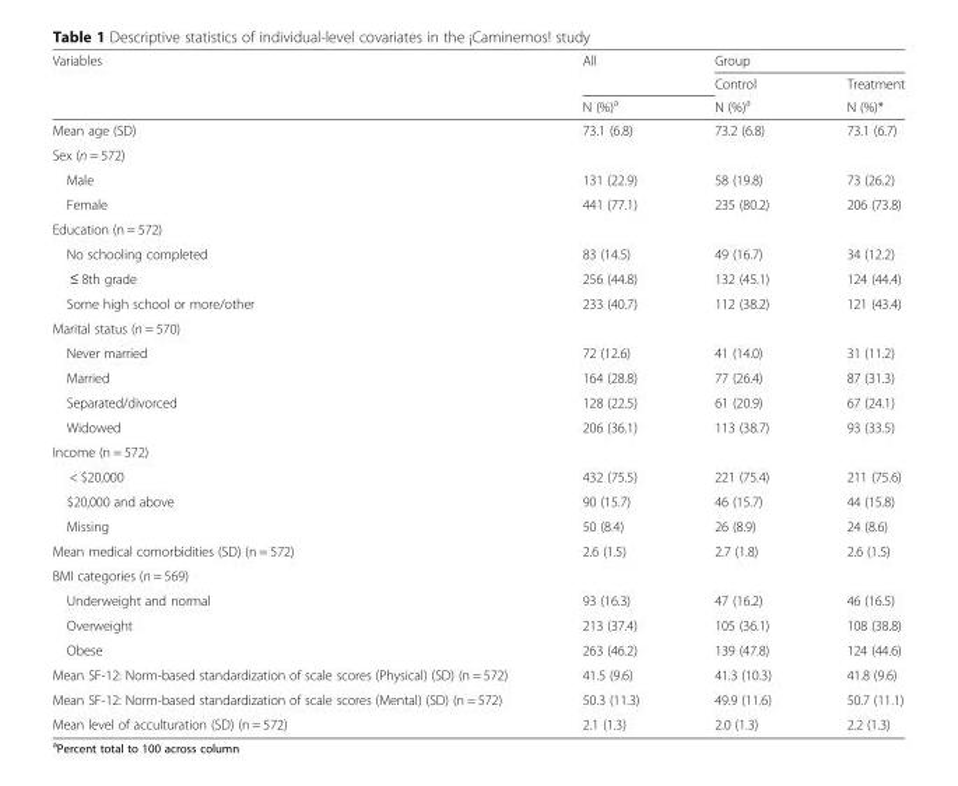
<table><thead><tr><td rowspan="3">Variables</td><td rowspan="3">All N (%)<sup>a</sup></td><td colspan="2">Group</td></tr><tr><td rowspan="2">Control N (%)<sup>a</sup></td><td rowspan="2">Treatment N (%)*</td></tr><tr></tr></thead><tbody><tr><td>Mean age (SD)</td><td>73.1 (6.8)</td><td>73.2 (6.8)</td><td>73.1 (6.7)</td></tr><tr><td colspan="4">Sex (n = 572)</td></tr><tr><td>Male</td><td>131 (22.9)</td><td>58 (19.8)</td><td>73 (26.2)</td></tr><tr><td>Female</td><td>441 (77.1)</td><td>235 (80.2)</td><td>206 (73.8)</td></tr><tr><td colspan="4">Education (n = 572)</td></tr><tr><td>No schooling completed</td><td>83 (14.5)</td><td>49 (16.7)</td><td>34 (12.2)</td></tr><tr><td>≤ 8th grade</td><td>256 (44.8)</td><td>132 (45.1)</td><td>124 (44.4)</td></tr><tr><td>Some high school or more/other</td><td>233 (40.7)</td><td>112 (38.2)</td><td>121 (43.4)</td></tr><tr><td colspan="4">Marital status (n = 570)</td></tr><tr><td>Never married</td><td>72 (12.6)</td><td>41 (14.0)</td><td>31 (11.2)</td></tr><tr><td>Married</td><td>164 (28.8)</td><td>77 (26.4)</td><td>87 (31.3)</td></tr><tr><td>Separated/divorced</td><td>128 (22.5)</td><td>61 (20.9)</td><td>67 (24.1)</td></tr><tr><td>Widowed</td><td>206 (36.1)</td><td>113 (38.7)</td><td>93 (33.5)</td></tr><tr><td colspan="4">Income (n = 572)</td></tr><tr><td>&lt; $20,000</td><td>432 (75.5)</td><td>221 (75.4)</td><td>211 (75.6)</td></tr><tr><td>$20,000 and above</td><td>90 (15.7)</td><td>46 (15.7)</td><td>44 (15.8)</td></tr><tr><td>Missing</td><td>50 (8.4)</td><td>26 (8.9)</td><td>24 (8.6)</td></tr><tr><td>Mean medical comorbidities (SD) (n = 572)</td><td>2.6 (1.5)</td><td>2.7 (1.8)</td><td>2.6 (1.5)</td></tr><tr><td colspan="4">BMI categories (n = 569)</td></tr><tr><td>Underweight and normal</td><td>93 (16.3)</td><td>47 (16.2)</td><td>46 (16.5)</td></tr><tr><td>Overweight</td><td>213 (37.4)</td><td>105 (36.1)</td><td>108 (38.8)</td></tr><tr><td>Obese</td><td>263 (46.2)</td><td>139 (47.8)</td><td>124 (44.6)</td></tr><tr><td>Mean SF-12: Norm-based standardization of scale scores (Physical) (SD) (n = 572)</td><td>41.5 (9.6)</td><td>41.3 (10.3)</td><td>41.8 (9.6)</td></tr><tr><td>Mean SF-12: Norm-based standardization of scale scores (Mental) (SD) (n = 572)</td><td>50.3 (11.3)</td><td>49.9 (11.6)</td><td>50.7 (11.1)</td></tr><tr><td>Mean level of acculturation (SD) (n = 572)</td><td>2.1 (1.3)</td><td>2.0 (1.3)</td><td>2.2 (1.3)</td></tr></tbody></table>